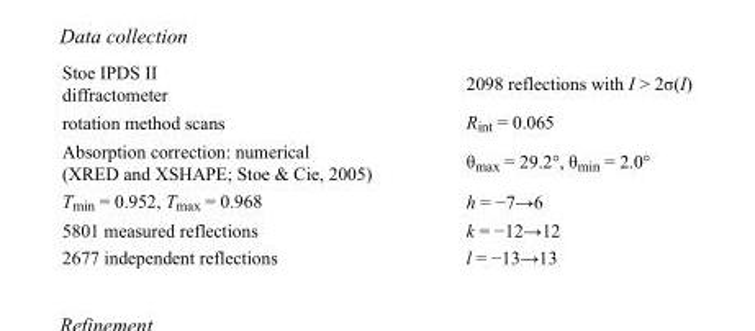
<table><tbody><tr><td>Stoe IPDS II diffractometer</td><td>2098 reflections with I &gt; 2σ(I)</td></tr><tr><td>rotation method scans</td><td>R<sub>int</sub> = 0.065</td></tr><tr><td>Absorption correction: numerical (XRED and XSHAPE; Stoe &amp; Cie, 2005)</td><td>θ<sub>max</sub> = 29.2°, θ<sub>min</sub> = 2.0°</td></tr><tr><td>T<sub>min</sub> = 0.952, T<sub>max</sub> = 0.968</td><td>h = −7→6</td></tr><tr><td>5801 measured reflections</td><td>k = −12→12</td></tr><tr><td>2677 independent reflections</td><td>l = −13→13</td></tr></tbody></table>